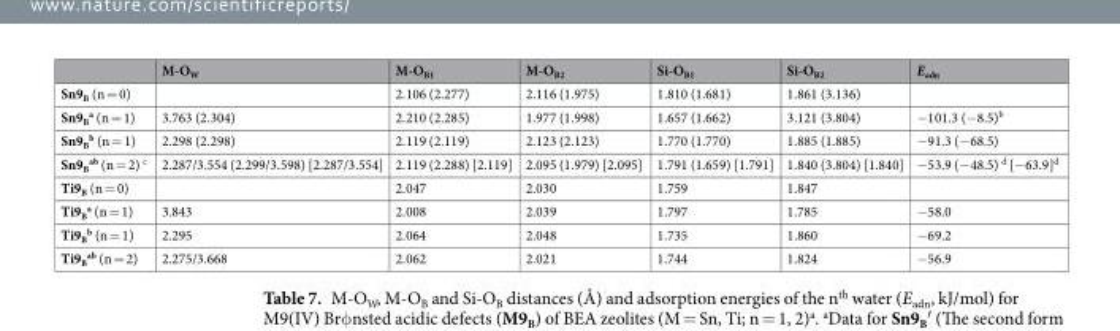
<table><thead><tr><td></td><td>M-O<sub>W</sub></td><td>M-O<sub>B1</sub></td><td>M-O<sub>B2</sub></td><td>Si-O<sub>B1</sub></td><td>Si-O<sub>B2</sub></td><td>E<sub>adn</sub></td></tr></thead><tbody><tr><td>Sn9<sub>B</sub> (n = 0)</td><td></td><td>2.106 (2.277)</td><td>2.116 (1.975)</td><td>1.810 (1.681)</td><td>1.861 (3.136)</td><td></td></tr><tr><td>Sn9<sub>B</sub> <sup>a</sup> (n = 1)</td><td>3.763 (2.304)</td><td>2.210 (2.285)</td><td>1.977 (1.998)</td><td>1.657 (1.662)</td><td>3.121 (3.804)</td><td>−101.3 (−8.5)<sup>b</sup></td></tr><tr><td>Sn9<sub>B</sub> <sup>b</sup> (n = 1)</td><td>2.298 (2.298)</td><td>2.119 (2.119)</td><td>2.123 (2.123)</td><td>1.770 (1.770)</td><td>1.885 (1.885)</td><td>−91.3 (−68.5)</td></tr><tr><td>Sn9<sub>B</sub> <sup>ab</sup> (n = 2) <sup>c</sup></td><td>2.287/3.554 (2.299/3.598) [2.287/3.554]</td><td>2.119 (2.288) [2.119]</td><td>2.095 (1.979) [2.095]</td><td>1.791 (1.659) [1.791]</td><td>1.840 (3.804) [1.840]</td><td>−53.9 (−48.5) <sup>d</sup> [−63.9]<sup>d</sup></td></tr><tr><td>Ti9<sub>B</sub> (n = 0)</td><td></td><td>2.047</td><td>2.030</td><td>1.759</td><td>1.847</td><td></td></tr><tr><td>Ti9<sub>B</sub> <sup>a</sup> (n = 1)</td><td>3.843</td><td>2.008</td><td>2.039</td><td>1.797</td><td>1.785</td><td>−58.0</td></tr><tr><td>Ti9<sub>B</sub> <sup>b</sup> (n = 1)</td><td>2.295</td><td>2.064</td><td>2.048</td><td>1.735</td><td>1.860</td><td>−69.2</td></tr><tr><td>Ti9<sub>B</sub> <sup>ab</sup> (n = 2)</td><td>2.275/3.668</td><td>2.062</td><td>2.021</td><td>1.744</td><td>1.824</td><td>−56.9</td></tr></tbody></table>